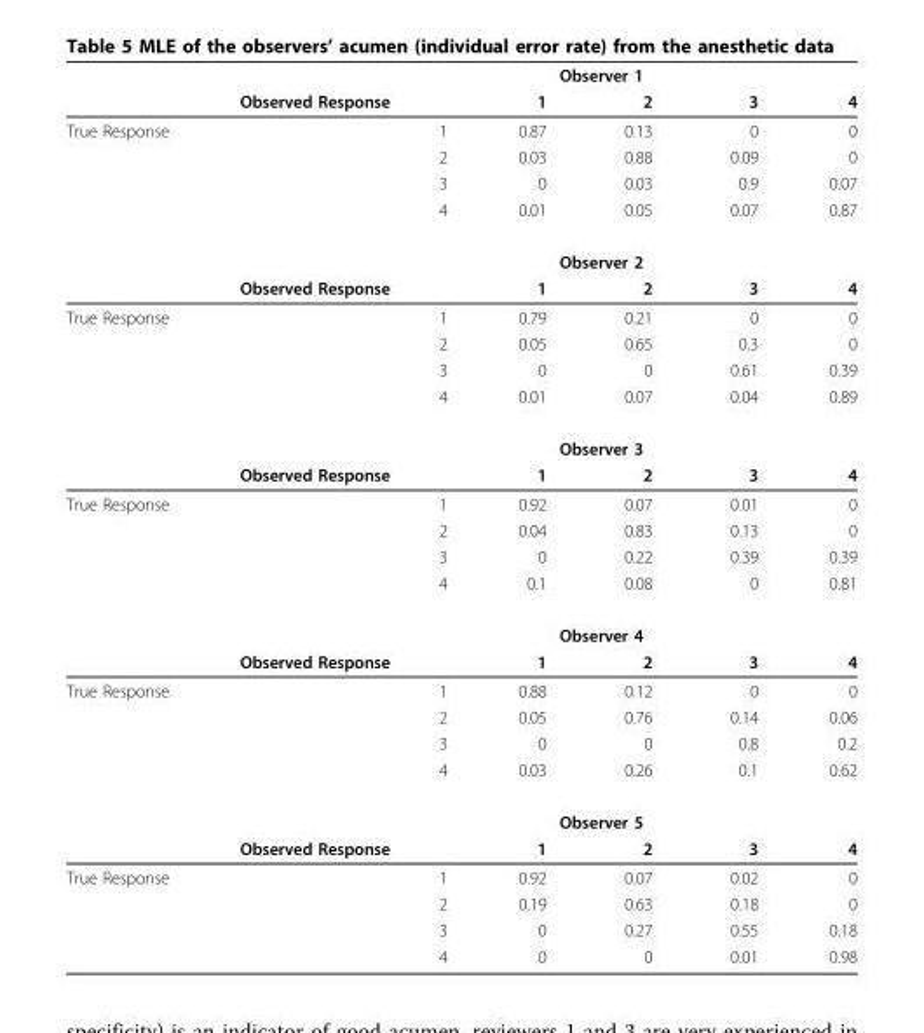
<table><thead><tr><td rowspan="2"></td><td rowspan="2">Observed Response</td><td rowspan="2">1</td><td colspan="2">Observer 1</td><td rowspan="2">4</td></tr><tr><td>2</td><td>3</td></tr></thead><tbody><tr><td rowspan="6">True Response</td><td>1</td><td>0.87</td><td>0.13</td><td>0</td><td>0</td></tr><tr><td>2</td><td>0.03</td><td>0.88</td><td>0.09</td><td>0</td></tr><tr><td>3</td><td>0</td><td>0.03</td><td>0.9</td><td>0.07</td></tr><tr><td>4</td><td>0.01</td><td>0.05</td><td>0.07</td><td>0.87</td></tr><tr><td></td><td></td><td colspan="2">Observer 2</td><td></td></tr><tr><td>Observed Response</td><td>1</td><td>2</td><td>3</td><td>4</td></tr><tr><td rowspan="6">True Response</td><td>1</td><td>0.79</td><td>0.21</td><td>0</td><td>0</td></tr><tr><td>2</td><td>0.05</td><td>0.65</td><td>0.3</td><td>0</td></tr><tr><td>3</td><td>0</td><td>0</td><td>0.61</td><td>0.39</td></tr><tr><td>4</td><td>0.01</td><td>0.07</td><td>0.04</td><td>0.89</td></tr><tr><td></td><td></td><td colspan="2">Observer 3</td><td></td></tr><tr><td>Observed Response</td><td>1</td><td>2</td><td>3</td><td>4</td></tr><tr><td rowspan="6">True Response</td><td>1</td><td>0.92</td><td>0.07</td><td>0.01</td><td>0</td></tr><tr><td>2</td><td>0.04</td><td>0.83</td><td>0.13</td><td>0</td></tr><tr><td>3</td><td>0</td><td>0.22</td><td>0.39</td><td>0.39</td></tr><tr><td>4</td><td>0.1</td><td>0.08</td><td>0</td><td>0.81</td></tr><tr><td></td><td></td><td colspan="2">Observer 4</td><td></td></tr><tr><td>Observed Response</td><td>1</td><td>2</td><td>3</td><td>4</td></tr><tr><td rowspan="6">True Response</td><td>1</td><td>0.88</td><td>0.12</td><td>0</td><td>0</td></tr><tr><td>2</td><td>0.05</td><td>0.76</td><td>0.14</td><td>0.06</td></tr><tr><td>3</td><td>0</td><td>0</td><td>0.8</td><td>0.2</td></tr><tr><td>4</td><td>0.03</td><td>0.26</td><td>0.1</td><td>0.62</td></tr><tr><td></td><td></td><td colspan="2">Observer 5</td><td></td></tr><tr><td>Observed Response</td><td>1</td><td>2</td><td>3</td><td>4</td></tr><tr><td rowspan="4">True Response</td><td>1</td><td>0.92</td><td>0.07</td><td>0.02</td><td>0</td></tr><tr><td>2</td><td>0.19</td><td>0.63</td><td>0.18</td><td>0</td></tr><tr><td>3</td><td>0</td><td>0.27</td><td>0.55</td><td>0.18</td></tr><tr><td>4</td><td>0</td><td>0</td><td>0.01</td><td>0.98</td></tr></tbody></table>